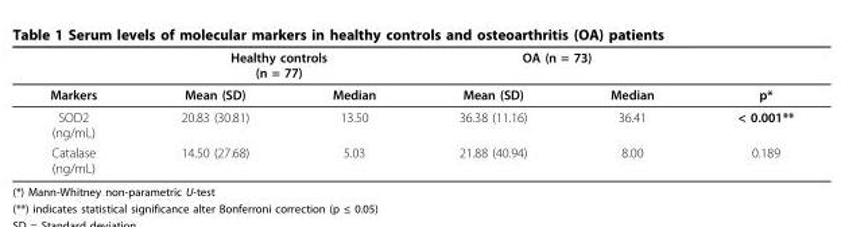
<table><thead><tr><td rowspan="2">Markers</td><td colspan="2">Healthy controls (n = 77)</td><td colspan="2">OA (n = 73)</td><td rowspan="2">p*</td></tr><tr><td>Mean (SD)</td><td>Median</td><td>Mean (SD)</td><td>Median</td></tr></thead><tbody><tr><td>SOD2 (ng/mL)</td><td>20.83 (30.81)</td><td>13.50</td><td>36.38 (11.16)</td><td>36.41</td><td>&lt; 0.001**</td></tr><tr><td>Catalase (ng/mL)</td><td>14.50 (27.68)</td><td>5.03</td><td>21.88 (40.94)</td><td>8.00</td><td>0.189</td></tr></tbody></table>